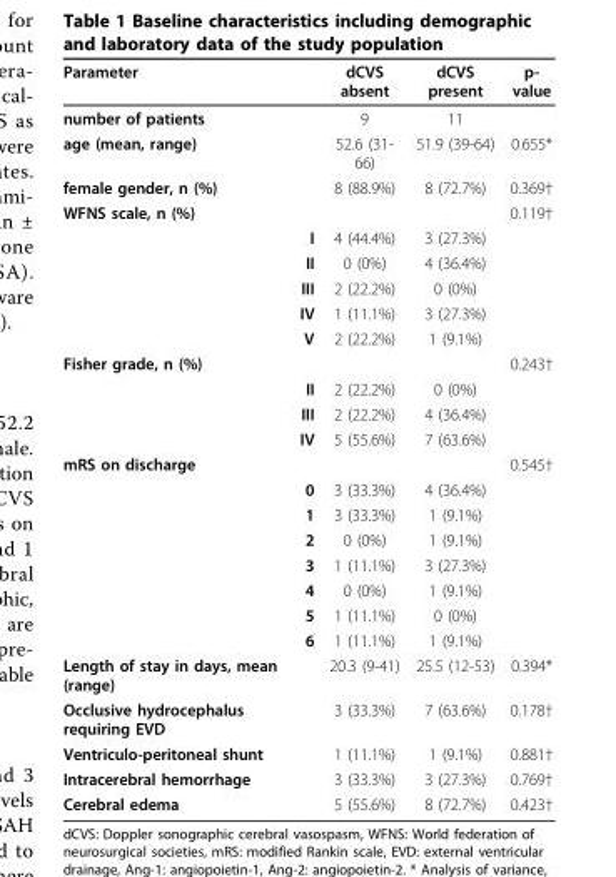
<table><thead><tr><td>Parameter</td><td>dCVS absent</td><td>dCVS present</td><td>p- value</td></tr></thead><tbody><tr><td>number of patients</td><td>9</td><td>11</td><td></td></tr><tr><td>age (mean, range)</td><td>52.6 (31- 66)</td><td>51.9 (39-64)</td><td>0.655*</td></tr><tr><td>female gender, n (%)</td><td>8 (88.9%)</td><td>8 (72.7%)</td><td>0.369†</td></tr><tr><td>WFNS scale, n (%)</td><td></td><td></td><td>0.119†</td></tr><tr><td>I</td><td>4 (44.4%)</td><td>3 (27.3%)</td><td></td></tr><tr><td>II</td><td>0 (0%)</td><td>4 (36.4%)</td><td></td></tr><tr><td>III</td><td>2 (22.2%)</td><td>0 (0%)</td><td></td></tr><tr><td>IV</td><td>1 (11.1%)</td><td>3 (27.3%)</td><td></td></tr><tr><td>V</td><td>2 (22.2%)</td><td>1 (9.1%)</td><td></td></tr><tr><td>Fisher grade, n (%)</td><td></td><td></td><td>0.243†</td></tr><tr><td>II</td><td>2 (22.2%)</td><td>0 (0%)</td><td></td></tr><tr><td>III</td><td>2 (22.2%)</td><td>4 (36.4%)</td><td></td></tr><tr><td>IV</td><td>5 (55.6%)</td><td>7 (63.6%)</td><td></td></tr><tr><td>mRS on discharge</td><td></td><td></td><td>0.545†</td></tr><tr><td>0</td><td>3 (33.3%)</td><td>4 (36.4%)</td><td></td></tr><tr><td>1</td><td>3 (33.3%)</td><td>1 (9.1%)</td><td></td></tr><tr><td>2</td><td>0 (0%)</td><td>1 (9.1%)</td><td></td></tr><tr><td>3</td><td>1 (11.1%)</td><td>3 (27.3%)</td><td></td></tr><tr><td>4</td><td>0 (0%)</td><td>1 (9.1%)</td><td></td></tr><tr><td>5</td><td>1 (11.1%)</td><td>0 (0%)</td><td></td></tr><tr><td>6</td><td>1 (11.1%)</td><td>1 (9.1%)</td><td></td></tr><tr><td>Length of stay in days, mean (range)</td><td>20.3 (9-41)</td><td>25.5 (12-53)</td><td>0.394*</td></tr><tr><td>Occlusive hydrocephalus requiring EVD</td><td>3 (33.3%)</td><td>7 (63.6%)</td><td>0.178†</td></tr><tr><td>Ventriculo-peritoneal shunt</td><td>1 (11.1%)</td><td>1 (9.1%)</td><td>0.881†</td></tr><tr><td>Intracerebral hemorrhage</td><td>3 (33.3%)</td><td>3 (27.3%)</td><td>0.769†</td></tr><tr><td>Cerebral edema</td><td>5 (55.6%)</td><td>8 (72.7%)</td><td>0.423†</td></tr></tbody></table>